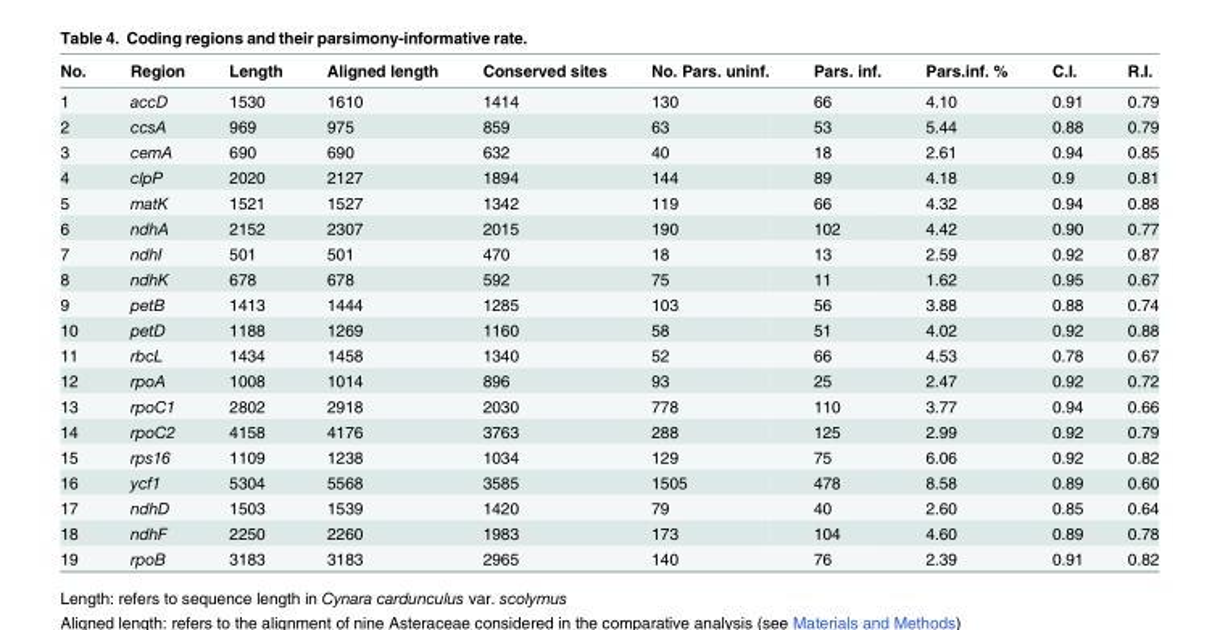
<table><thead><tr><td>No.</td><td>Region</td><td>Length</td><td>Aligned length</td><td>Conserved sites</td><td>No. Pars. uninf.</td><td>Pars. inf.</td><td>Pars.inf. %</td><td>C.I.</td><td>R.I.</td></tr></thead><tbody><tr><td>1</td><td>accD</td><td>1530</td><td>1610</td><td>1414</td><td>130</td><td>66</td><td>4.10</td><td>0.91</td><td>0.79</td></tr><tr><td>2</td><td>ccsA</td><td>969</td><td>975</td><td>859</td><td>63</td><td>53</td><td>5.44</td><td>0.88</td><td>0.79</td></tr><tr><td>3</td><td>cemA</td><td>690</td><td>690</td><td>632</td><td>40</td><td>18</td><td>2.61</td><td>0.94</td><td>0.85</td></tr><tr><td>4</td><td>clpP</td><td>2020</td><td>2127</td><td>1894</td><td>144</td><td>89</td><td>4.18</td><td>0.9</td><td>0.81</td></tr><tr><td>5</td><td>matK</td><td>1521</td><td>1527</td><td>1342</td><td>119</td><td>66</td><td>4.32</td><td>0.94</td><td>0.88</td></tr><tr><td>6</td><td>ndhA</td><td>2152</td><td>2307</td><td>2015</td><td>190</td><td>102</td><td>4.42</td><td>0.90</td><td>0.77</td></tr><tr><td>7</td><td>ndhI</td><td>501</td><td>501</td><td>470</td><td>18</td><td>13</td><td>2.59</td><td>0.92</td><td>0.87</td></tr><tr><td>8</td><td>ndhK</td><td>678</td><td>678</td><td>592</td><td>75</td><td>11</td><td>1.62</td><td>0.95</td><td>0.67</td></tr><tr><td>9</td><td>petB</td><td>1413</td><td>1444</td><td>1285</td><td>103</td><td>56</td><td>3.88</td><td>0.88</td><td>0.74</td></tr><tr><td>10</td><td>petD</td><td>1188</td><td>1269</td><td>1160</td><td>58</td><td>51</td><td>4.02</td><td>0.92</td><td>0.88</td></tr><tr><td>11</td><td>rbcL</td><td>1434</td><td>1458</td><td>1340</td><td>52</td><td>66</td><td>4.53</td><td>0.78</td><td>0.67</td></tr><tr><td>12</td><td>rpoA</td><td>1008</td><td>1014</td><td>896</td><td>93</td><td>25</td><td>2.47</td><td>0.92</td><td>0.72</td></tr><tr><td>13</td><td>rpoC1</td><td>2802</td><td>2918</td><td>2030</td><td>778</td><td>110</td><td>3.77</td><td>0.94</td><td>0.66</td></tr><tr><td>14</td><td>rpoC2</td><td>4158</td><td>4176</td><td>3763</td><td>288</td><td>125</td><td>2.99</td><td>0.92</td><td>0.79</td></tr><tr><td>15</td><td>rps16</td><td>1109</td><td>1238</td><td>1034</td><td>129</td><td>75</td><td>6.06</td><td>0.92</td><td>0.82</td></tr><tr><td>16</td><td>ycf1</td><td>5304</td><td>5568</td><td>3585</td><td>1505</td><td>478</td><td>8.58</td><td>0.89</td><td>0.60</td></tr><tr><td>17</td><td>ndhD</td><td>1503</td><td>1539</td><td>1420</td><td>79</td><td>40</td><td>2.60</td><td>0.85</td><td>0.64</td></tr><tr><td>18</td><td>ndhF</td><td>2250</td><td>2260</td><td>1983</td><td>173</td><td>104</td><td>4.60</td><td>0.89</td><td>0.78</td></tr><tr><td>19</td><td>rpoB</td><td>3183</td><td>3183</td><td>2965</td><td>140</td><td>76</td><td>2.39</td><td>0.91</td><td>0.82</td></tr></tbody></table>